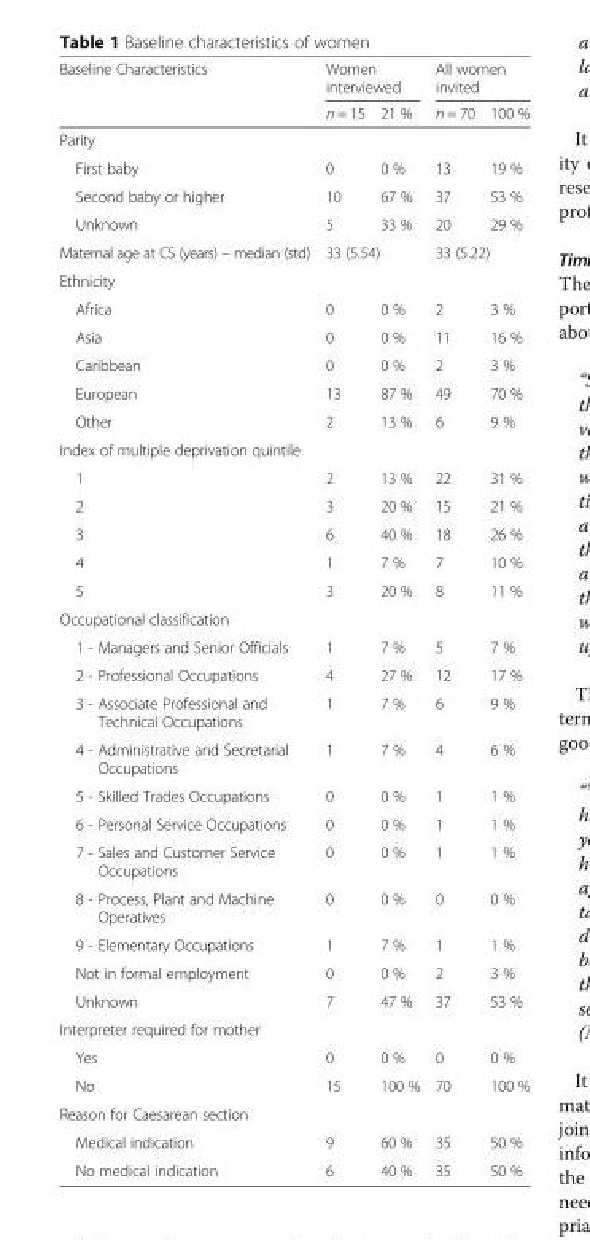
<table><thead><tr><td rowspan="2">Baseline Characteristics</td><td colspan="2">Women interviewed</td><td colspan="2">All women invited</td></tr><tr><td>n = 15</td><td>21 %</td><td>n = 70</td><td>100 %</td></tr></thead><tbody><tr><td colspan="5">Parity</td></tr><tr><td>First baby</td><td>0</td><td>0 %</td><td>13</td><td>19 %</td></tr><tr><td>Second baby or higher</td><td>10</td><td>67 %</td><td>37</td><td>53 %</td></tr><tr><td>Unknown</td><td>5</td><td>33 %</td><td>20</td><td>29 %</td></tr><tr><td>Maternal age at CS (years) – median (std)</td><td colspan="2">33 (5.54)</td><td colspan="2">33 (5.22)</td></tr><tr><td colspan="5">Ethnicity</td></tr><tr><td>Africa</td><td>0</td><td>0 %</td><td>2</td><td>3 %</td></tr><tr><td>Asia</td><td>0</td><td>0 %</td><td>11</td><td>16 %</td></tr><tr><td>Caribbean</td><td>0</td><td>0 %</td><td>2</td><td>3 %</td></tr><tr><td>European</td><td>13</td><td>87 %</td><td>49</td><td>70 %</td></tr><tr><td>Other</td><td>2</td><td>13 %</td><td>6</td><td>9 %</td></tr><tr><td colspan="5">Index of multiple deprivation quintile</td></tr><tr><td>1</td><td>2</td><td>13 %</td><td>22</td><td>31 %</td></tr><tr><td>2</td><td>3</td><td>20 %</td><td>15</td><td>21 %</td></tr><tr><td>3</td><td>6</td><td>40 %</td><td>18</td><td>26 %</td></tr><tr><td>4</td><td>1</td><td>7 %</td><td>7</td><td>10 %</td></tr><tr><td>5</td><td>3</td><td>20 %</td><td>8</td><td>11 %</td></tr><tr><td colspan="5">Occupational classification</td></tr><tr><td>1 - Managers and Senior Officials</td><td>1</td><td>7 %</td><td>5</td><td>7 %</td></tr><tr><td>2 - Professional Occupations</td><td>4</td><td>27 %</td><td>12</td><td>17 %</td></tr><tr><td>3 - Associate Professional and Technical Occupations</td><td>1</td><td>7 %</td><td>6</td><td>9 %</td></tr><tr><td>4 - Administrative and Secretarial Occupations</td><td>1</td><td>7 %</td><td>4</td><td>6 %</td></tr><tr><td>5 - Skilled Trades Occupations</td><td>0</td><td>0 %</td><td>1</td><td>1 %</td></tr><tr><td>6 - Personal Service Occupations</td><td>0</td><td>0 %</td><td>1</td><td>1 %</td></tr><tr><td>7 - Sales and Customer Service Occupations</td><td>0</td><td>0 %</td><td>1</td><td>1 %</td></tr><tr><td>8 - Process, Plant and Machine Operatives</td><td>0</td><td>0 %</td><td>0</td><td>0 %</td></tr><tr><td>9 - Elementary Occupations</td><td>1</td><td>7 %</td><td>1</td><td>1 %</td></tr><tr><td>Not in formal employment</td><td>0</td><td>0 %</td><td>2</td><td>3 %</td></tr><tr><td>Unknown</td><td>7</td><td>47 %</td><td>37</td><td>53 %</td></tr><tr><td colspan="5">Interpreter required for mother</td></tr><tr><td>Yes</td><td>0</td><td>0 %</td><td>0</td><td>0 %</td></tr><tr><td>No</td><td>15</td><td>100 %</td><td>70</td><td>100 %</td></tr><tr><td colspan="5">Reason for Caesarean section</td></tr><tr><td>Medical indication</td><td>9</td><td>60 %</td><td>35</td><td>50 %</td></tr><tr><td>No medical indication</td><td>6</td><td>40 %</td><td>35</td><td>50 %</td></tr></tbody></table>